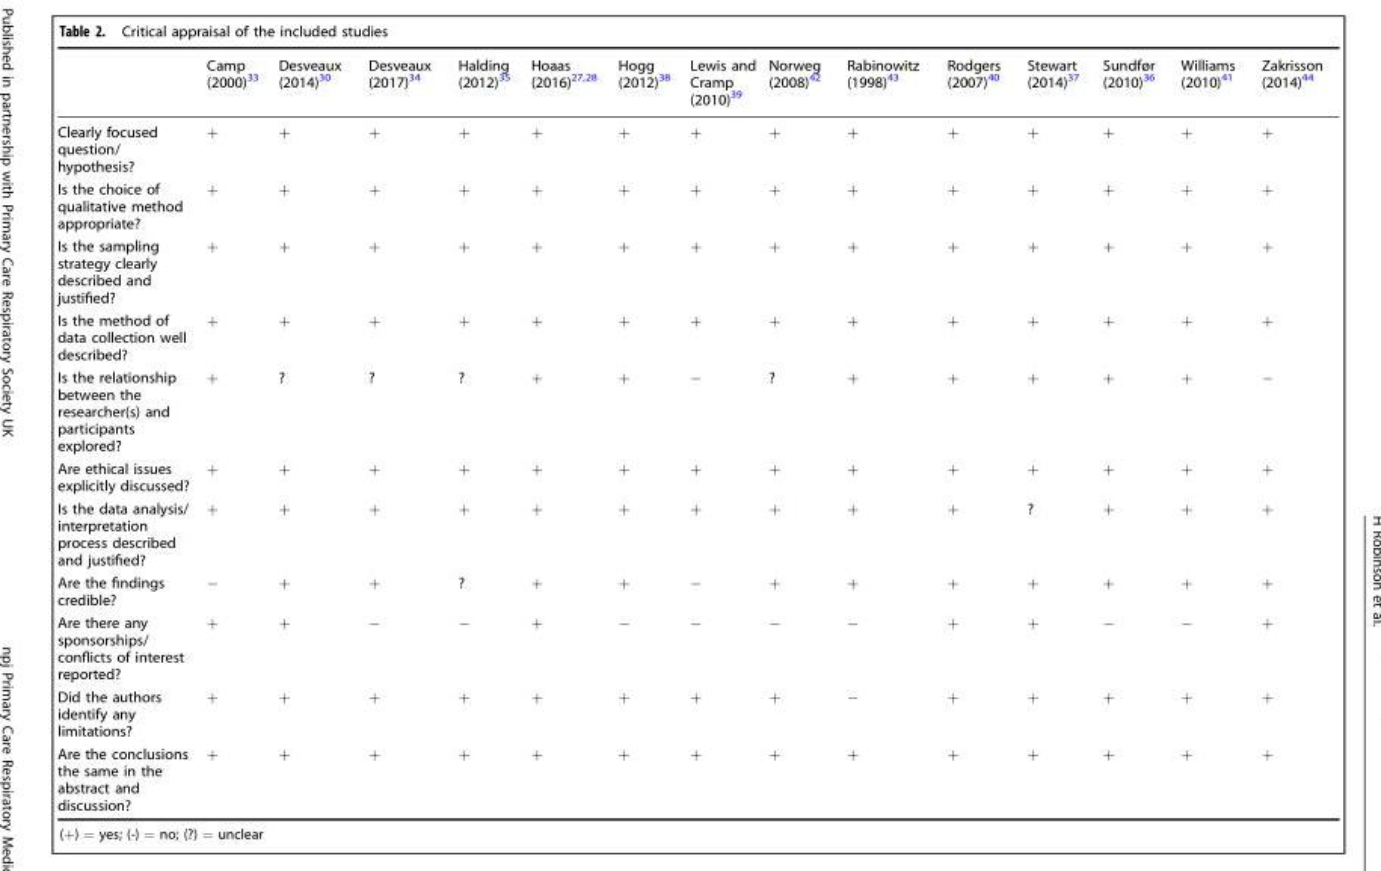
<table><thead><tr><td></td><td>Camp (2000)<sup>33</sup></td><td>Desveaux (2014)<sup>30</sup></td><td>Desveaux (2017)<sup>34</sup></td><td>Halding (2012)<sup>35</sup></td><td>Hoaas (2016)<sup>27,28</sup></td><td>Hogg (2012)<sup>38</sup></td><td>Lewis and Cramp (2010)<sup>39</sup></td><td>Norweg (2008)<sup>42</sup></td><td>Rabinowitz (1998)<sup>43</sup></td><td>Rodgers (2007)<sup>40</sup></td><td>Stewart (2014)<sup>37</sup></td><td>Sundfør (2010)<sup>36</sup></td><td>Williams (2010)<sup>41</sup></td><td>Zakrisson (2014)<sup>44</sup></td></tr></thead><tbody><tr><td>Clearly focused question/ hypothesis?</td><td>+</td><td>+</td><td>+</td><td>+</td><td>+</td><td>+</td><td>+</td><td>+</td><td>+</td><td>+</td><td>+</td><td>+</td><td>+</td><td>+</td></tr><tr><td>Is the choice of qualitative method appropriate?</td><td>+</td><td>+</td><td>+</td><td>+</td><td>+</td><td>+</td><td>+</td><td>+</td><td>+</td><td>+</td><td>+</td><td>+</td><td>+</td><td>+</td></tr><tr><td>Is the sampling strategy clearly described and justified?</td><td>+</td><td>+</td><td>+</td><td>+</td><td>+</td><td>+</td><td>+</td><td>+</td><td>+</td><td>+</td><td>+</td><td>+</td><td>+</td><td>+</td></tr><tr><td>Is the method of data collection well described?</td><td>+</td><td>+</td><td>+</td><td>+</td><td>+</td><td>+</td><td>+</td><td>+</td><td>+</td><td>+</td><td>+</td><td>+</td><td>+</td><td>+</td></tr><tr><td>Is the relationship between the researcher(s) and participants explored?</td><td>+</td><td>?</td><td>?</td><td>?</td><td>+</td><td>+</td><td>−</td><td>?</td><td>+</td><td>+</td><td>+</td><td>+</td><td>+</td><td>−</td></tr><tr><td>Are ethical issues explicitly discussed?</td><td>+</td><td>+</td><td>+</td><td>+</td><td>+</td><td>+</td><td>+</td><td>+</td><td>+</td><td>+</td><td>+</td><td>+</td><td>+</td><td>+</td></tr><tr><td>Is the data analysis/ interpretation process described and justified?</td><td>+</td><td>+</td><td>+</td><td>+</td><td>+</td><td>+</td><td>+</td><td>+</td><td>+</td><td>+</td><td>?</td><td>+</td><td>+</td><td>+</td></tr><tr><td>Are the findings credible?</td><td>−</td><td>+</td><td>+</td><td>?</td><td>+</td><td>+</td><td>−</td><td>+</td><td>+</td><td>+</td><td>+</td><td>+</td><td>+</td><td>+</td></tr><tr><td>Are there any sponsorships/ conflicts of interest reported?</td><td>+</td><td>+</td><td>−</td><td>−</td><td>+</td><td>−</td><td>−</td><td>−</td><td>−</td><td>+</td><td>+</td><td>−</td><td>−</td><td>+</td></tr><tr><td>Did the authors identify any limitations?</td><td>+</td><td>+</td><td>+</td><td>+</td><td>+</td><td>+</td><td>+</td><td>+</td><td>−</td><td>+</td><td>+</td><td>+</td><td>+</td><td>+</td></tr><tr><td>Are the conclusions the same in the abstract and discussion?</td><td>+</td><td>+</td><td>+</td><td>+</td><td>+</td><td>+</td><td>+</td><td>+</td><td>+</td><td>+</td><td>+</td><td>+</td><td>+</td><td>+</td></tr></tbody></table>